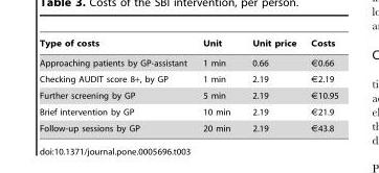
<table><thead><tr><td>Type of costs</td><td>Unit</td><td>Unit price</td><td>Costs</td></tr></thead><tbody><tr><td>Approaching patients by GP-assistant</td><td>1 min</td><td>0.66</td><td>€0.66</td></tr><tr><td>Checking AUDIT score 8+, by GP</td><td>1 min</td><td>2.19</td><td>€2.19</td></tr><tr><td>Further screening by GP</td><td>5 min</td><td>2.19</td><td>€10.95</td></tr><tr><td>Brief intervention by GP</td><td>10 min</td><td>2.19</td><td>€21.9</td></tr><tr><td>Follow-up sessions by GP</td><td>20 min</td><td>2.19</td><td>€43.8</td></tr></tbody></table>